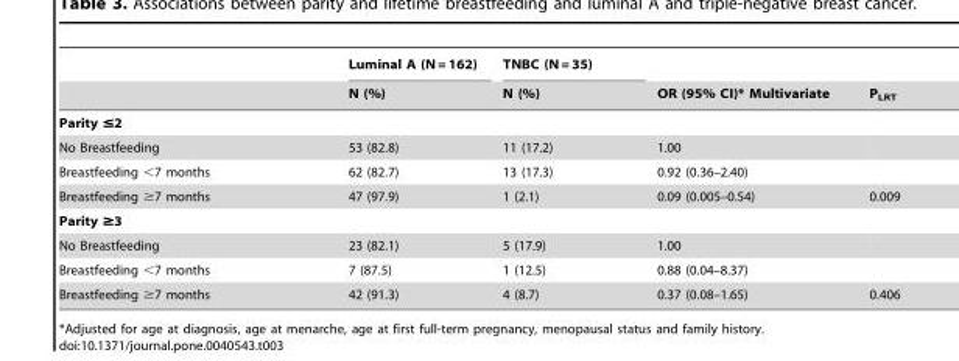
<table><thead><tr><td rowspan="2"></td><td rowspan="2">Luminal A (N = 162) N (%)</td><td rowspan="2">TNBC (N = 35) N (%)</td><td rowspan="2">OR (95% CI)* Multivariate</td><td rowspan="2">P<sub>LRT</sub></td></tr><tr></tr></thead><tbody><tr><td colspan="5">Parity ≤2</td></tr><tr><td>No Breastfeeding</td><td>53 (82.8)</td><td>11 (17.2)</td><td>1.00</td><td></td></tr><tr><td>Breastfeeding &lt;7 months</td><td>62 (82.7)</td><td>13 (17.3)</td><td>0.92 (0.36–2.40)</td><td></td></tr><tr><td>Breastfeeding ≥7 months</td><td>47 (97.9)</td><td>1 (2.1)</td><td>0.09 (0.005–0.54)</td><td>0.009</td></tr><tr><td colspan="5">Parity ≥3</td></tr><tr><td>No Breastfeeding</td><td>23 (82.1)</td><td>5 (17.9)</td><td>1.00</td><td></td></tr><tr><td>Breastfeeding &lt;7 months</td><td>7 (87.5)</td><td>1 (12.5)</td><td>0.88 (0.04–8.37)</td><td></td></tr><tr><td>Breastfeeding ≥7 months</td><td>42 (91.3)</td><td>4 (8.7)</td><td>0.37 (0.08–1.65)</td><td>0.406</td></tr></tbody></table>